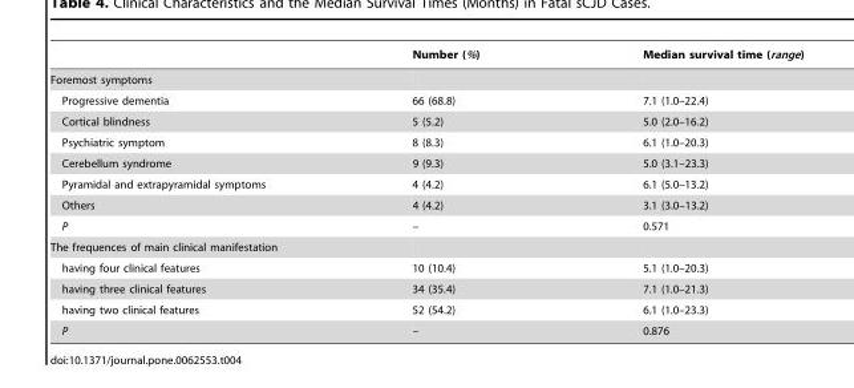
<table><thead><tr><td></td><td>Number (%)</td><td>Median survival time (range)</td></tr></thead><tbody><tr><td colspan="3">Foremost symptoms</td></tr><tr><td>Progressive dementia</td><td>66 (68.8)</td><td>7.1 (1.0–22.4)</td></tr><tr><td>Cortical blindness</td><td>5 (5.2)</td><td>5.0 (2.0–16.2)</td></tr><tr><td>Psychiatric symptom</td><td>8 (8.3)</td><td>6.1 (1.0–20.3)</td></tr><tr><td>Cerebellum syndrome</td><td>9 (9.3)</td><td>5.0 (3.1–23.3)</td></tr><tr><td>Pyramidal and extrapyramidal symptoms</td><td>4 (4.2)</td><td>6.1 (5.0–13.2)</td></tr><tr><td>Others</td><td>4 (4.2)</td><td>3.1 (3.0–13.2)</td></tr><tr><td>P</td><td>–</td><td>0.571</td></tr><tr><td colspan="3">The frequences of main clinical manifestation</td></tr><tr><td>having four clinical features</td><td>10 (10.4)</td><td>5.1 (1.0–20.3)</td></tr><tr><td>having three clinical features</td><td>34 (35.4)</td><td>7.1 (1.0–21.3)</td></tr><tr><td>having two clinical features</td><td>52 (54.2)</td><td>6.1 (1.0–23.3)</td></tr><tr><td>P</td><td>–</td><td>0.876</td></tr></tbody></table>